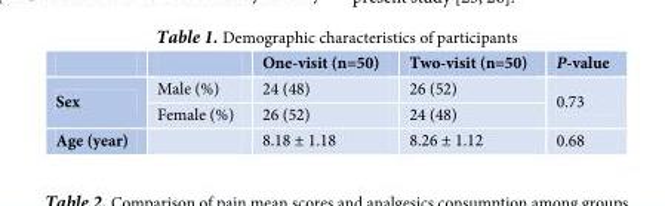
<table><thead><tr><td></td><td></td><td>One-visit (n=50)</td><td>Two-visit (n=50)</td><td>P-value</td></tr></thead><tbody><tr><td rowspan="2">Sex</td><td>Male (%)</td><td>24 (48)</td><td>26 (52)</td><td rowspan="2">0.73</td></tr><tr><td>Female (%)</td><td>26 (52)</td><td>24 (48)</td></tr><tr><td>Age (year)</td><td></td><td>8.18 ± 1.18</td><td>8.26 ± 1.12</td><td>0.68</td></tr></tbody></table>